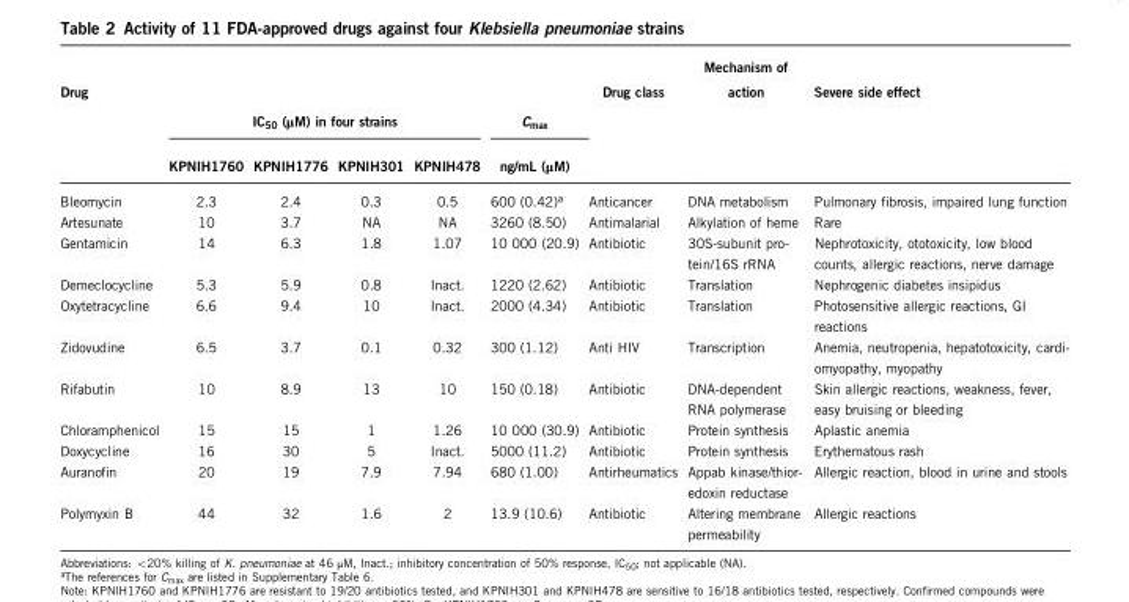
<table><thead><tr><td rowspan="2">Drug</td><td colspan="4">IC<sub>50</sub> (μM) in four strains</td><td rowspan="2">C<sub>max</sub> ng/mL (μM)</td><td rowspan="2">Drug class</td><td rowspan="2">Mechanism of action</td><td rowspan="2">Severe side effect</td></tr><tr><td>KPNIH1760</td><td>KPNIH1776</td><td>KPNIH301</td><td>KPNIH478</td></tr></thead><tbody><tr><td>Bleomycin</td><td>2.3</td><td>2.4</td><td>0.3</td><td>0.5</td><td>600 (0.42)<sup>a</sup></td><td>Anticancer</td><td>DNA metabolism</td><td>Pulmonary fibrosis, impaired lung function</td></tr><tr><td>Artesunate</td><td>10</td><td>3.7</td><td>NA</td><td>NA</td><td>3260 (8.50)</td><td>Antimalarial</td><td>Alkylation of heme</td><td>Rare</td></tr><tr><td>Gentamicin</td><td>14</td><td>6.3</td><td>1.8</td><td>1.07</td><td>10 000 (20.9)</td><td>Antibiotic</td><td>30S-subunit pro- tein/16S rRNA</td><td>Nephrotoxicity, ototoxicity, low blood counts, allergic reactions, nerve damage</td></tr><tr><td>Demeclocycline</td><td>5.3</td><td>5.9</td><td>0.8</td><td>Inact.</td><td>1220 (2.62)</td><td>Antibiotic</td><td>Translation</td><td>Nephrogenic diabetes insipidus</td></tr><tr><td>Oxytetracycline</td><td>6.6</td><td>9.4</td><td>10</td><td>Inact.</td><td>2000 (4.34)</td><td>Antibiotic</td><td>Translation</td><td>Photosensitive allergic reactions, GI reactions</td></tr><tr><td>Zidovudine</td><td>6.5</td><td>3.7</td><td>0.1</td><td>0.32</td><td>300 (1.12)</td><td>Anti HIV</td><td>Transcription</td><td>Anemia, neutropenia, hepatotoxicity, cardi- omyopathy, myopathy</td></tr><tr><td>Rifabutin</td><td>10</td><td>8.9</td><td>13</td><td>10</td><td>150 (0.18)</td><td>Antibiotic</td><td>DNA-dependent RNA polymerase</td><td>Skin allergic reactions, weakness, fever, easy bruising or bleeding</td></tr><tr><td>Chloramphenicol</td><td>15</td><td>15</td><td>1</td><td>1.26</td><td>10 000 (30.9)</td><td>Antibiotic</td><td>Protein synthesis</td><td>Aplastic anemia</td></tr><tr><td>Doxycycline</td><td>16</td><td>30</td><td>5</td><td>Inact.</td><td>5000 (11.2)</td><td>Antibiotic</td><td>Protein synthesis</td><td>Erythematous rash</td></tr><tr><td>Auranofin</td><td>20</td><td>19</td><td>7.9</td><td>7.94</td><td>680 (1.00)</td><td>Antirheumatics</td><td>Appab kinase/thior- edoxin reductase</td><td>Allergic reaction, blood in urine and stools</td></tr><tr><td>Polymyxin B</td><td>44</td><td>32</td><td>1.6</td><td>2</td><td>13.9 (10.6)</td><td>Antibiotic</td><td>Altering membrane permeability</td><td>Allergic reactions</td></tr></tbody></table>